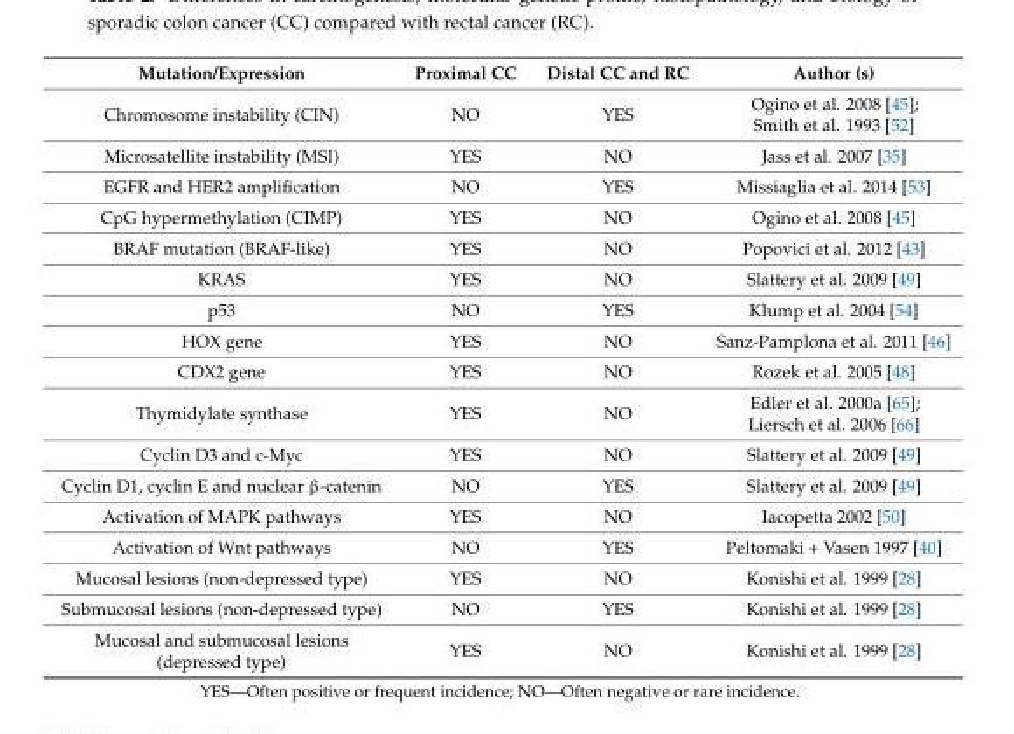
<table><thead><tr><td>Mutation/Expression</td><td>Proximal CC</td><td>Distal CC and RC</td><td>Author (s)</td></tr></thead><tbody><tr><td>Chromosome instability (CIN)</td><td>NO</td><td>YES</td><td>Ogino et al. 2008 [45]; Smith et al. 1993 [52]</td></tr><tr><td>Microsatellite instability (MSI)</td><td>YES</td><td>NO</td><td>Jass et al. 2007 [35]</td></tr><tr><td>EGFR and HER2 amplification</td><td>NO</td><td>YES</td><td>Missiaglia et al. 2014 [53]</td></tr><tr><td>CpG hypermethylation (CIMP)</td><td>YES</td><td>NO</td><td>Ogino et al. 2008 [45]</td></tr><tr><td>BRAF mutation (BRAF-like)</td><td>YES</td><td>NO</td><td>Popovici et al. 2012 [43]</td></tr><tr><td>KRAS</td><td>YES</td><td>NO</td><td>Slattery et al. 2009 [49]</td></tr><tr><td>p53</td><td>NO</td><td>YES</td><td>Klump et al. 2004 [54]</td></tr><tr><td>HOX gene</td><td>YES</td><td>NO</td><td>Sanz-Pamplona et al. 2011 [46]</td></tr><tr><td>CDX2 gene</td><td>YES</td><td>NO</td><td>Rozek et al. 2005 [48]</td></tr><tr><td>Thymidylate synthase</td><td>YES</td><td>NO</td><td>Edler et al. 2000a [65]; Liersch et al. 2006 [66]</td></tr><tr><td>Cyclin D3 and c-Myc</td><td>YES</td><td>NO</td><td>Slattery et al. 2009 [49]</td></tr><tr><td>Cyclin D1, cyclin E and nuclear β-catenin</td><td>NO</td><td>YES</td><td>Slattery et al. 2009 [49]</td></tr><tr><td>Activation of MAPK pathways</td><td>YES</td><td>NO</td><td>Iacopetta 2002 [50]</td></tr><tr><td>Activation of Wnt pathways</td><td>NO</td><td>YES</td><td>Peltomaki + Vasen 1997 [40]</td></tr><tr><td>Mucosal lesions (non-depressed type)</td><td>YES</td><td>NO</td><td>Konishi et al. 1999 [28]</td></tr><tr><td>Submucosal lesions (non-depressed type)</td><td>NO</td><td>YES</td><td>Konishi et al. 1999 [28]</td></tr><tr><td>Mucosal and submucosal lesions (depressed type)</td><td>YES</td><td>NO</td><td>Konishi et al. 1999 [28]</td></tr></tbody></table>